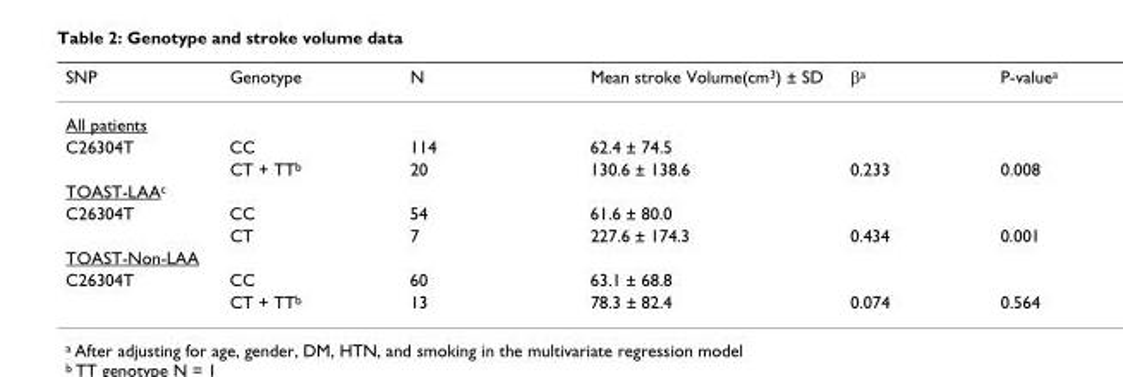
<table><thead><tr><td>SNP</td><td>Genotype</td><td>N</td><td>Mean stroke Volume(cm<sup>3</sup>) ± SD</td><td>β<sup>a</sup></td><td>P-value<sup>a</sup></td></tr></thead><tbody><tr><td colspan="6">All patients</td></tr><tr><td rowspan="2">C26304T</td><td>CC</td><td>114</td><td>62.4 ± 74.5</td><td></td><td></td></tr><tr><td>CT + TT<sup>b</sup></td><td>20</td><td>130.6 ± 138.6</td><td>0.233</td><td>0.008</td></tr><tr><td colspan="6">TOAST-LAA<sup>c</sup></td></tr><tr><td rowspan="2">C26304T</td><td>CC</td><td>54</td><td>61.6 ± 80.0</td><td></td><td></td></tr><tr><td>CT</td><td>7</td><td>227.6 ± 174.3</td><td>0.434</td><td>0.001</td></tr><tr><td colspan="6">TOAST-Non-LAA</td></tr><tr><td rowspan="2">C26304T</td><td>CC</td><td>60</td><td>63.1 ± 68.8</td><td></td><td></td></tr><tr><td>CT + TT<sup>b</sup></td><td>13</td><td>78.3 ± 82.4</td><td>0.074</td><td>0.564</td></tr></tbody></table>